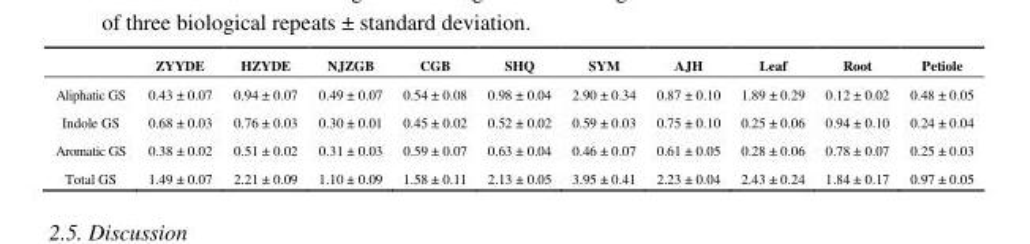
<table><thead><tr><td></td><td>ZYYDE</td><td>HZYDE</td><td>NJZGB</td><td>CGB</td><td>SHQ</td><td>SYM</td><td>AJH</td><td>Leaf</td><td>Root</td><td>Petiole</td></tr></thead><tbody><tr><td>Aliphatic GS</td><td>0.43 ± 0.07</td><td>0.94 ± 0.07</td><td>0.49 ± 0.07</td><td>0.54 ± 0.08</td><td>0.98 ± 0.04</td><td>2.90 ± 0.34</td><td>0.87 ± 0.10</td><td>1.89 ± 0.29</td><td>0.12 ± 0.02</td><td>0.48 ± 0.05</td></tr><tr><td>Indole GS</td><td>0.68 ± 0.03</td><td>0.76 ± 0.03</td><td>0.30 ± 0.01</td><td>0.45 ± 0.02</td><td>0.52 ± 0.02</td><td>0.59 ± 0.03</td><td>0.75 ± 0.10</td><td>0.25 ± 0.06</td><td>0.94 ± 0.10</td><td>0.24 ± 0.04</td></tr><tr><td>Aromatic GS</td><td>0.38 ± 0.02</td><td>0.51 ± 0.02</td><td>0.31 ± 0.03</td><td>0.59 ± 0.07</td><td>0.63 ± 0.04</td><td>0.46 ± 0.07</td><td>0.61 ± 0.05</td><td>0.28 ± 0.06</td><td>0.78 ± 0.07</td><td>0.25 ± 0.03</td></tr><tr><td>Total GS</td><td>1.49 ± 0.07</td><td>2.21 ± 0.09</td><td>1.10 ± 0.09</td><td>1.58 ± 0.11</td><td>2.13 ± 0.05</td><td>3.95 ± 0.41</td><td>2.23 ± 0.04</td><td>2.43 ± 0.24</td><td>1.84 ± 0.17</td><td>0.97 ± 0.05</td></tr></tbody></table>